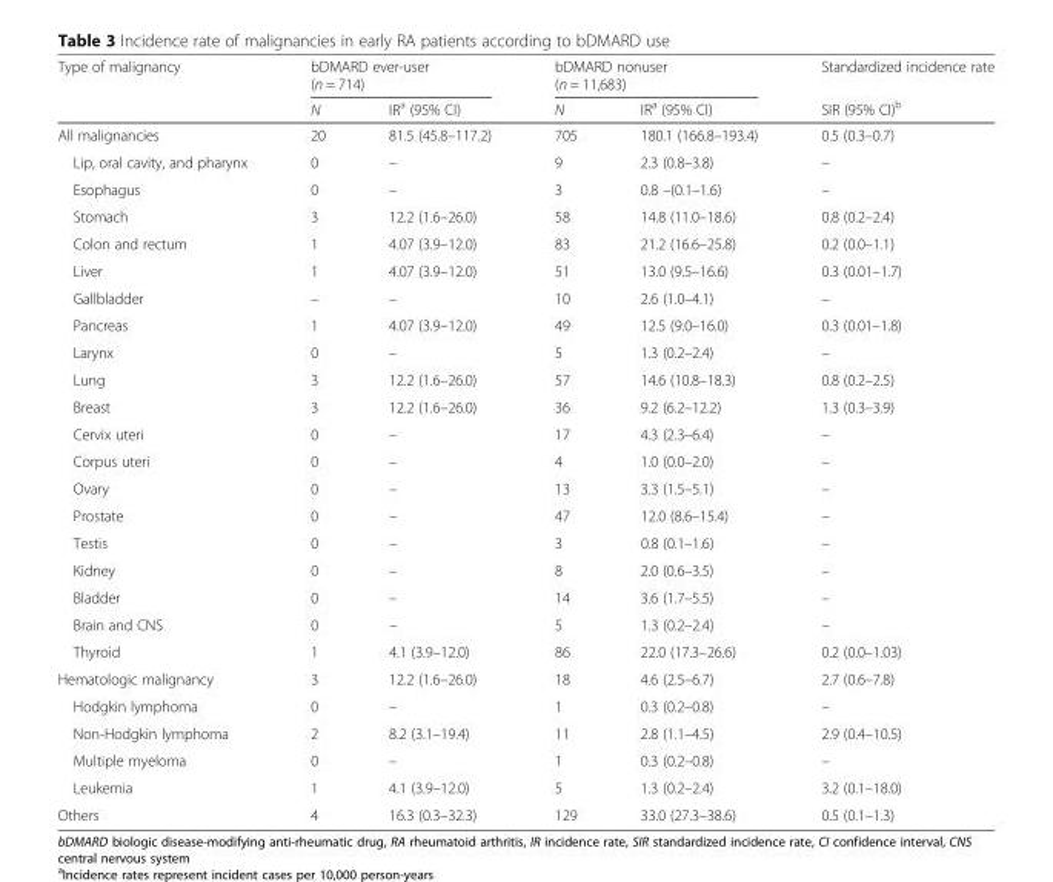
<table><thead><tr><td rowspan="2">Type of malignancy</td><td colspan="2">bDMARD ever-user (n = 714)</td><td colspan="2">bDMARD nonuser (n = 11,683)</td><td rowspan="2">Standardized incidence rate SIR (95% CI)<sup>b</sup></td></tr><tr><td>N</td><td>IR<sup>a</sup> (95% CI)</td><td>N</td><td>IR<sup>a</sup> (95% CI)</td></tr></thead><tbody><tr><td>All malignancies</td><td>20</td><td>81.5 (45.8–117.2)</td><td>705</td><td>180.1 (166.8–193.4)</td><td>0.5 (0.3–0.7)</td></tr><tr><td>Lip, oral cavity, and pharynx</td><td>0</td><td>–</td><td>9</td><td>2.3 (0.8–3.8)</td><td>–</td></tr><tr><td>Esophagus</td><td>0</td><td>–</td><td>3</td><td>0.8 –(0.1–1.6)</td><td>–</td></tr><tr><td>Stomach</td><td>3</td><td>12.2 (1.6–26.0)</td><td>58</td><td>14.8 (11.0–18.6)</td><td>0.8 (0.2–2.4)</td></tr><tr><td>Colon and rectum</td><td>1</td><td>4.07 (3.9–12.0)</td><td>83</td><td>21.2 (16.6–25.8)</td><td>0.2 (0.0–1.1)</td></tr><tr><td>Liver</td><td>1</td><td>4.07 (3.9–12.0)</td><td>51</td><td>13.0 (9.5–16.6)</td><td>0.3 (0.01–1.7)</td></tr><tr><td>Gallbladder</td><td>–</td><td>–</td><td>10</td><td>2.6 (1.0–4.1)</td><td>–</td></tr><tr><td>Pancreas</td><td>1</td><td>4.07 (3.9–12.0)</td><td>49</td><td>12.5 (9.0–16.0)</td><td>0.3 (0.01–1.8)</td></tr><tr><td>Larynx</td><td>0</td><td>–</td><td>5</td><td>1.3 (0.2–2.4)</td><td>–</td></tr><tr><td>Lung</td><td>3</td><td>12.2 (1.6–26.0)</td><td>57</td><td>14.6 (10.8–18.3)</td><td>0.8 (0.2–2.5)</td></tr><tr><td>Breast</td><td>3</td><td>12.2 (1.6–26.0)</td><td>36</td><td>9.2 (6.2–12.2)</td><td>1.3 (0.3–3.9)</td></tr><tr><td>Cervix uteri</td><td>0</td><td>–</td><td>17</td><td>4.3 (2.3–6.4)</td><td>–</td></tr><tr><td>Corpus uteri</td><td>0</td><td>–</td><td>4</td><td>1.0 (0.0–2.0)</td><td>–</td></tr><tr><td>Ovary</td><td>0</td><td>–</td><td>13</td><td>3.3 (1.5–5.1)</td><td>–</td></tr><tr><td>Prostate</td><td>0</td><td>–</td><td>47</td><td>12.0 (8.6–15.4)</td><td>–</td></tr><tr><td>Testis</td><td>0</td><td>–</td><td>3</td><td>0.8 (0.1–1.6)</td><td>–</td></tr><tr><td>Kidney</td><td>0</td><td>–</td><td>8</td><td>2.0 (0.6–3.5)</td><td>–</td></tr><tr><td>Bladder</td><td>0</td><td>–</td><td>14</td><td>3.6 (1.7–5.5)</td><td>–</td></tr><tr><td>Brain and CNS</td><td>0</td><td>–</td><td>5</td><td>1.3 (0.2–2.4)</td><td>–</td></tr><tr><td>Thyroid</td><td>1</td><td>4.1 (3.9–12.0)</td><td>86</td><td>22.0 (17.3–26.6)</td><td>0.2 (0.0–1.03)</td></tr><tr><td>Hematologic malignancy</td><td>3</td><td>12.2 (1.6–26.0)</td><td>18</td><td>4.6 (2.5–6.7)</td><td>2.7 (0.6–7.8)</td></tr><tr><td>Hodgkin lymphoma</td><td>0</td><td>–</td><td>1</td><td>0.3 (0.2–0.8)</td><td>–</td></tr><tr><td>Non-Hodgkin lymphoma</td><td>2</td><td>8.2 (3.1–19.4)</td><td>11</td><td>2.8 (1.1–4.5)</td><td>2.9 (0.4–10.5)</td></tr><tr><td>Multiple myeloma</td><td>0</td><td>–</td><td>1</td><td>0.3 (0.2–0.8)</td><td>–</td></tr><tr><td>Leukemia</td><td>1</td><td>4.1 (3.9–12.0)</td><td>5</td><td>1.3 (0.2–2.4)</td><td>3.2 (0.1–18.0)</td></tr><tr><td>Others</td><td>4</td><td>16.3 (0.3–32.3)</td><td>129</td><td>33.0 (27.3–38.6)</td><td>0.5 (0.1–1.3)</td></tr></tbody></table>